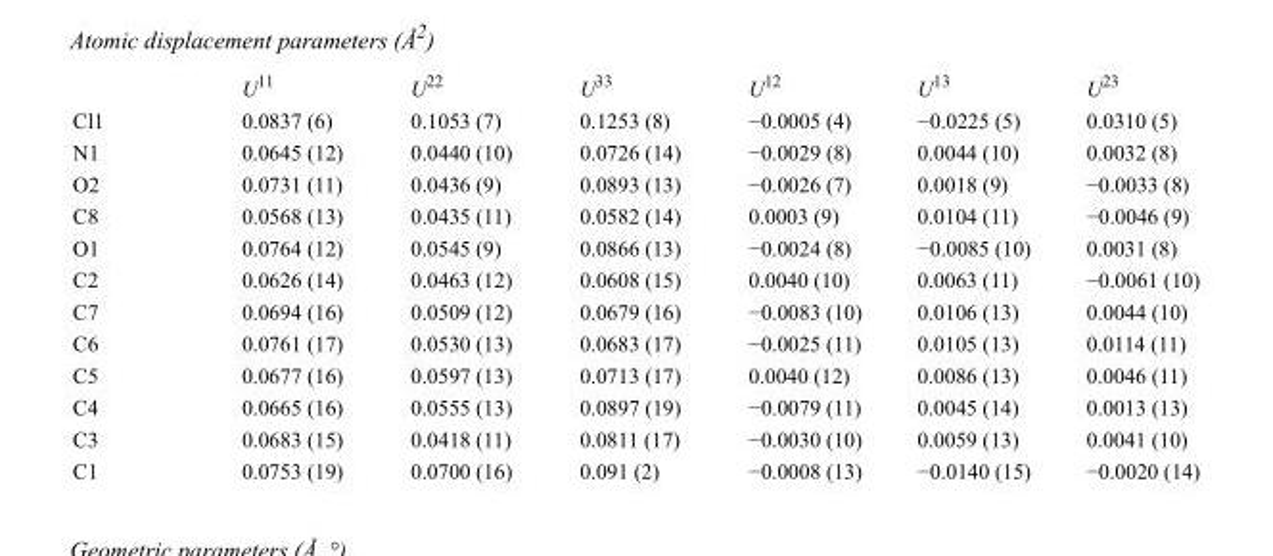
<table><thead><tr><td></td><td>U<sup>11</sup></td><td>U<sup>22</sup></td><td>U<sup>33</sup></td><td>U<sup>12</sup></td><td>U<sup>13</sup></td><td>U<sup>23</sup></td></tr></thead><tbody><tr><td>Cl1</td><td>0.0837 (6)</td><td>0.1053 (7)</td><td>0.1253 (8)</td><td>−0.0005 (4)</td><td>−0.0225 (5)</td><td>0.0310 (5)</td></tr><tr><td>N1</td><td>0.0645 (12)</td><td>0.0440 (10)</td><td>0.0726 (14)</td><td>−0.0029 (8)</td><td>0.0044 (10)</td><td>0.0032 (8)</td></tr><tr><td>O2</td><td>0.0731 (11)</td><td>0.0436 (9)</td><td>0.0893 (13)</td><td>−0.0026 (7)</td><td>0.0018 (9)</td><td>−0.0033 (8)</td></tr><tr><td>C8</td><td>0.0568 (13)</td><td>0.0435 (11)</td><td>0.0582 (14)</td><td>0.0003 (9)</td><td>0.0104 (11)</td><td>−0.0046 (9)</td></tr><tr><td>O1</td><td>0.0764 (12)</td><td>0.0545 (9)</td><td>0.0866 (13)</td><td>−0.0024 (8)</td><td>−0.0085 (10)</td><td>0.0031 (8)</td></tr><tr><td>C2</td><td>0.0626 (14)</td><td>0.0463 (12)</td><td>0.0608 (15)</td><td>0.0040 (10)</td><td>0.0063 (11)</td><td>−0.0061 (10)</td></tr><tr><td>C7</td><td>0.0694 (16)</td><td>0.0509 (12)</td><td>0.0679 (16)</td><td>−0.0083 (10)</td><td>0.0106 (13)</td><td>0.0044 (10)</td></tr><tr><td>C6</td><td>0.0761 (17)</td><td>0.0530 (13)</td><td>0.0683 (17)</td><td>−0.0025 (11)</td><td>0.0105 (13)</td><td>0.0114 (11)</td></tr><tr><td>C5</td><td>0.0677 (16)</td><td>0.0597 (13)</td><td>0.0713 (17)</td><td>0.0040 (12)</td><td>0.0086 (13)</td><td>0.0046 (11)</td></tr><tr><td>C4</td><td>0.0665 (16)</td><td>0.0555 (13)</td><td>0.0897 (19)</td><td>−0.0079 (11)</td><td>0.0045 (14)</td><td>0.0013 (13)</td></tr><tr><td>C3</td><td>0.0683 (15)</td><td>0.0418 (11)</td><td>0.0811 (17)</td><td>−0.0030 (10)</td><td>0.0059 (13)</td><td>0.0041 (10)</td></tr><tr><td>C1</td><td>0.0753 (19)</td><td>0.0700 (16)</td><td>0.091 (2)</td><td>−0.0008 (13)</td><td>−0.0140 (15)</td><td>−0.0020 (14)</td></tr></tbody></table>